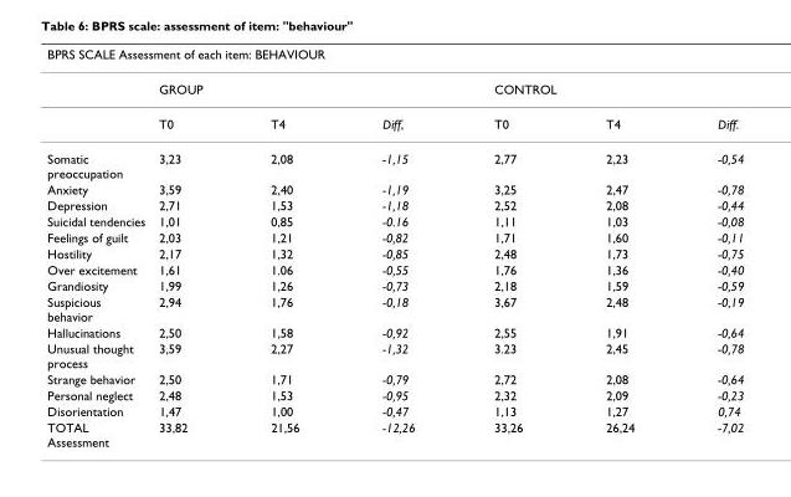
<table><thead><tr><td colspan="7">BPRS SCALE Assessment of each item: BEHAVIOUR</td></tr><tr><td></td><td>GROUP</td><td></td><td></td><td>CONTROL</td><td></td><td></td></tr></thead><tbody><tr><td></td><td>T0</td><td>T4</td><td>Diff,</td><td>T0</td><td>T4</td><td>Diff.</td></tr><tr><td>Somatic preoccupation</td><td>3,23</td><td>2,08</td><td>-1,15</td><td>2,77</td><td>2,23</td><td>-0,54</td></tr><tr><td>Anxiety</td><td>3,59</td><td>2,40</td><td>-1,19</td><td>3,25</td><td>2,47</td><td>-0,78</td></tr><tr><td>Depression</td><td>2,71</td><td>1,53</td><td>-1,18</td><td>2,52</td><td>2,08</td><td>-0,44</td></tr><tr><td>Suicidal tendencies</td><td>1,01</td><td>0,85</td><td>-0.16</td><td>1,11</td><td>1,03</td><td>-0,08</td></tr><tr><td>Feelings of guilt</td><td>2,03</td><td>1,21</td><td>-0,82</td><td>1,71</td><td>1,60</td><td>-0,11</td></tr><tr><td>Hostility</td><td>2,17</td><td>1,32</td><td>-0,85</td><td>2,48</td><td>1,73</td><td>-0,75</td></tr><tr><td>Over excitement</td><td>1,61</td><td>1.06</td><td>-0,55</td><td>1,76</td><td>1,36</td><td>-0,40</td></tr><tr><td>Grandiosity</td><td>1,99</td><td>1,26</td><td>-0,73</td><td>2,18</td><td>1,59</td><td>-0,59</td></tr><tr><td>Suspicious behavior</td><td>2,94</td><td>1,76</td><td>-0,18</td><td>3,67</td><td>2,48</td><td>-0,19</td></tr><tr><td>Hallucinations</td><td>2,50</td><td>1,58</td><td>-0,92</td><td>2,55</td><td>1,91</td><td>-0,64</td></tr><tr><td>Unusual thought process</td><td>3,59</td><td>2,27</td><td>-1,32</td><td>3.23</td><td>2,45</td><td>-0,78</td></tr><tr><td>Strange behavior</td><td>2,50</td><td>1,71</td><td>-0,79</td><td>2,72</td><td>2,08</td><td>-0,64</td></tr><tr><td>Personal neglect</td><td>2,48</td><td>1,53</td><td>-0,95</td><td>2,32</td><td>2,09</td><td>-0,23</td></tr><tr><td>Disorientation</td><td>1,47</td><td>1,00</td><td>-0,47</td><td>1,13</td><td>1,27</td><td>0,74</td></tr><tr><td>TOTAL Assessment</td><td>33,82</td><td>21,56</td><td>-12,26</td><td>33,26</td><td>26,24</td><td>-7,02</td></tr></tbody></table>